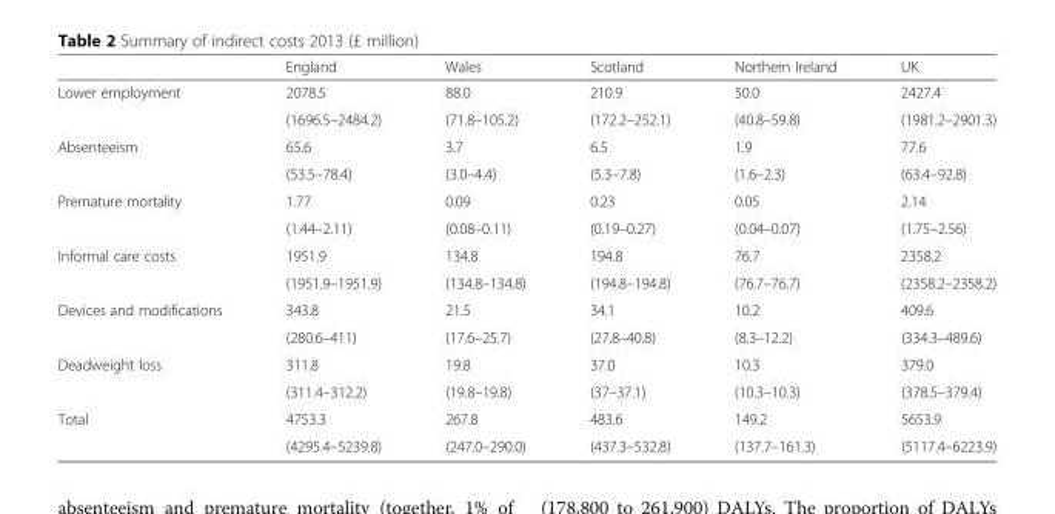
<table><thead><tr><td></td><td>England</td><td>Wales</td><td>Scotland</td><td>Northern Ireland</td><td>UK</td></tr></thead><tbody><tr><td rowspan="2">Lower employment</td><td>2078.5</td><td>88.0</td><td>210.9</td><td>50.0</td><td>2427.4</td></tr><tr><td>(1696.5–2484.2)</td><td>(71.8–105.2)</td><td>(172.2–252.1)</td><td>(40.8–59.8)</td><td>(1981.2–2901.3)</td></tr><tr><td rowspan="2">Absenteeism</td><td>65.6</td><td>3.7</td><td>6.5</td><td>1.9</td><td>77.6</td></tr><tr><td>(53.5–78.4)</td><td>(3.0–4.4)</td><td>(5.3–7.8)</td><td>(1.6–2.3)</td><td>(63.4–92.8)</td></tr><tr><td rowspan="2">Premature mortality</td><td>1.77</td><td>0.09</td><td>0.23</td><td>0.05</td><td>2.14</td></tr><tr><td>(1.44–2.11)</td><td>(0.08–0.11)</td><td>(0.19–0.27)</td><td>(0.04–0.07)</td><td>(1.75–2.56)</td></tr><tr><td rowspan="2">Informal care costs</td><td>1951.9</td><td>134.8</td><td>194.8</td><td>76.7</td><td>2358.2</td></tr><tr><td>(1951.9–1951.9)</td><td>(134.8–134.8)</td><td>(194.8–194.8)</td><td>(76.7–76.7)</td><td>(2358.2–2358.2)</td></tr><tr><td rowspan="2">Devices and modifications</td><td>343.8</td><td>21.5</td><td>34.1</td><td>10.2</td><td>409.6</td></tr><tr><td>(280.6–411)</td><td>(17.6–25.7)</td><td>(27.8–40.8)</td><td>(8.3–12.2)</td><td>(334.3–489.6)</td></tr><tr><td rowspan="2">Deadweight loss</td><td>311.8</td><td>19.8</td><td>37.0</td><td>10.3</td><td>379.0</td></tr><tr><td>(311.4–312.2)</td><td>(19.8–19.8)</td><td>(37–37.1)</td><td>(10.3–10.3)</td><td>(378.5–379.4)</td></tr><tr><td rowspan="2">Total</td><td>4753.3</td><td>267.8</td><td>483.6</td><td>149.2</td><td>5653.9</td></tr><tr><td>(4295.4–5239.8)</td><td>(247.0–290.0)</td><td>(437.3–532.8)</td><td>(137.7–161.3)</td><td>(5117.4–6223.9)</td></tr></tbody></table>